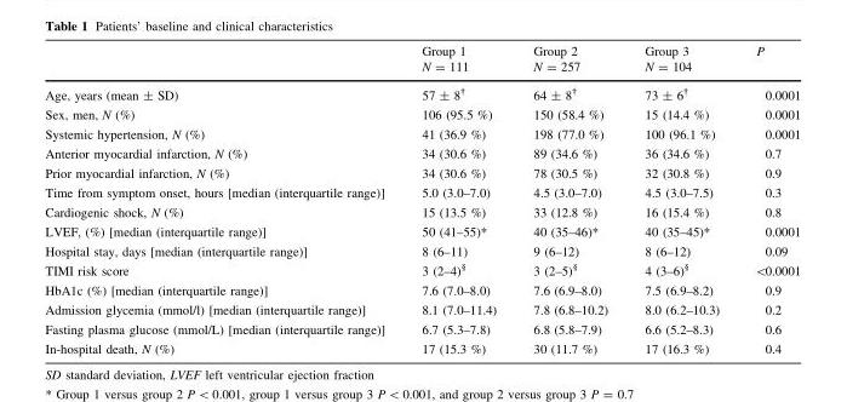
<table><thead><tr><td></td><td>Group 1 N = 111</td><td>Group 2 N = 257</td><td>Group 3 N = 104</td><td>P</td></tr></thead><tbody><tr><td>Age, years (mean ± SD)</td><td>57 ± 8<sup>†</sup></td><td>64 ± 8<sup>†</sup></td><td>73 ± 6<sup>†</sup></td><td>0.0001</td></tr><tr><td>Sex, men, N (%)</td><td>106 (95.5 %)</td><td>150 (58.4 %)</td><td>15 (14.4 %)</td><td>0.0001</td></tr><tr><td>Systemic hypertension, N (%)</td><td>41 (36.9 %)</td><td>198 (77.0 %)</td><td>100 (96.1 %)</td><td>0.0001</td></tr><tr><td>Anterior myocardial infarction, N (%)</td><td>34 (30.6 %)</td><td>89 (34.6 %)</td><td>36 (34.6 %)</td><td>0.7</td></tr><tr><td>Prior myocardial infarction, N (%)</td><td>34 (30.6 %)</td><td>78 (30.5 %)</td><td>32 (30.8 %)</td><td>0.9</td></tr><tr><td>Time from symptom onset, hours [median (interquartile range)]</td><td>5.0 (3.0–7.0)</td><td>4.5 (3.0–7.0)</td><td>4.5 (3.0–7.5)</td><td>0.3</td></tr><tr><td>Cardiogenic shock, N (%)</td><td>15 (13.5 %)</td><td>33 (12.8 %)</td><td>16 (15.4 %)</td><td>0.8</td></tr><tr><td>LVEF, (%) [median (interquartile range)]</td><td>50 (41–55)*</td><td>40 (35–46)*</td><td>40 (35–45)*</td><td>0.0001</td></tr><tr><td>Hospital stay, days [median (interquartile range)]</td><td>8 (6–11)</td><td>9 (6–12)</td><td>8 (6–12)</td><td>0.09</td></tr><tr><td>TIMI risk score</td><td>3 (2–4)<sup>§</sup></td><td>3 (2–5)<sup>§</sup></td><td>4 (3–6)<sup>§</sup></td><td>&lt;0.0001</td></tr><tr><td>HbA1c (%) [median (interquartile range)]</td><td>7.6 (7.0–8.0)</td><td>7.6 (6.9–8.0)</td><td>7.5 (6.9–8.2)</td><td>0.9</td></tr><tr><td>Admission glycemia (mmol/l) [median (interquartile range)]</td><td>8.1 (7.0–11.4)</td><td>7.8 (6.8–10.2)</td><td>8.0 (6.2–10.3)</td><td>0.2</td></tr><tr><td>Fasting plasma glucose (mmol/L) [median (interquartile range)]</td><td>6.7 (5.3–7.8)</td><td>6.8 (5.8–7.9)</td><td>6.6 (5.2–8.3)</td><td>0.6</td></tr><tr><td>In-hospital death, N (%)</td><td>17 (15.3 %)</td><td>30 (11.7 %)</td><td>17 (16.3 %)</td><td>0.4</td></tr></tbody></table>